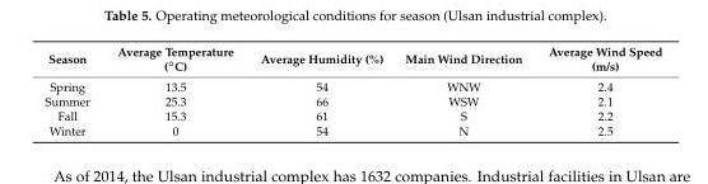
<table><thead><tr><td>Season</td><td>Average Temperature (◦C)</td><td>Average Humidity (%)</td><td>Main Wind Direction</td><td>Average Wind Speed (m/s)</td></tr></thead><tbody><tr><td>Spring</td><td>13.5</td><td>54</td><td>WNW</td><td>2.4</td></tr><tr><td>Summer</td><td>25.3</td><td>66</td><td>WSW</td><td>2.1</td></tr><tr><td>Fall</td><td>15.3</td><td>61</td><td>S</td><td>2.2</td></tr><tr><td>Winter</td><td>0</td><td>54</td><td>N</td><td>2.5</td></tr></tbody></table>